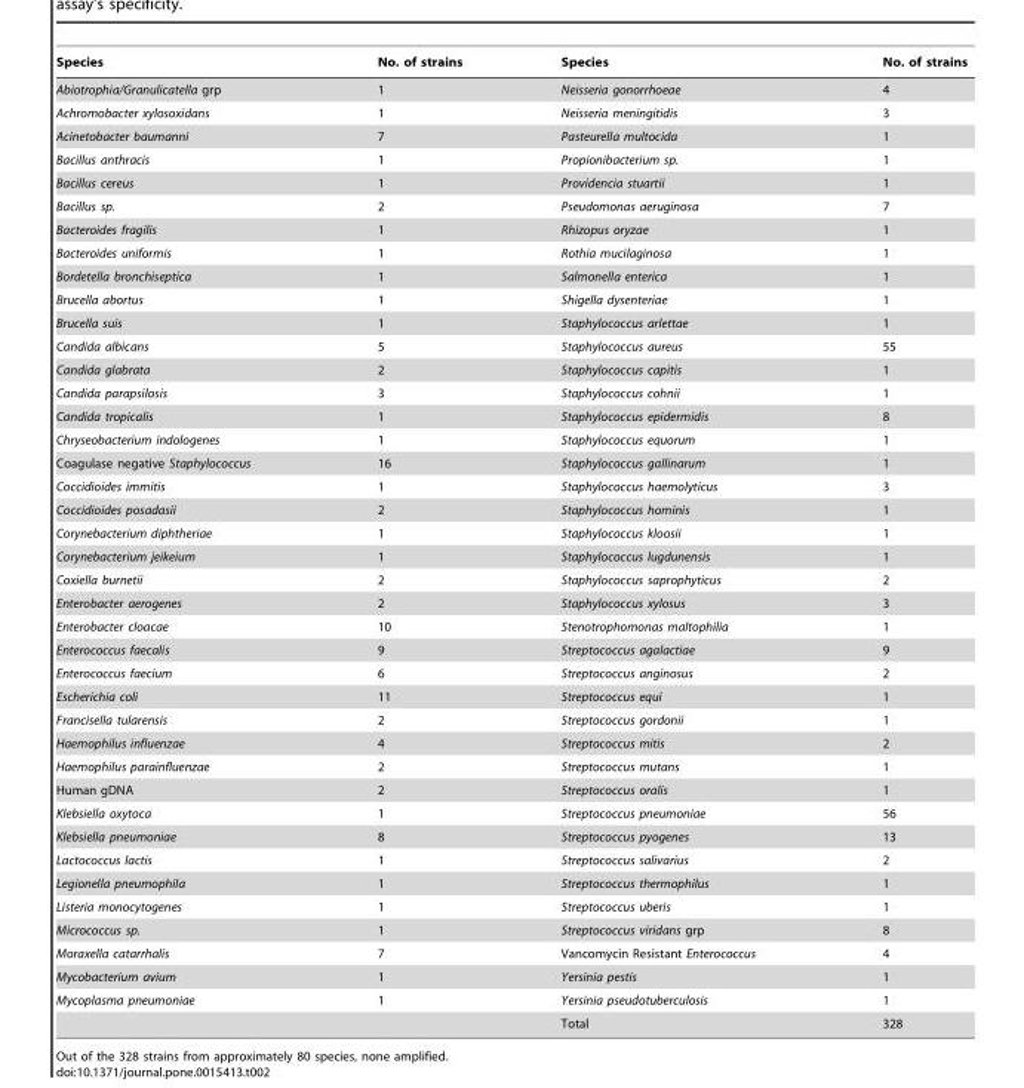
<table><thead><tr><td>Species</td><td>No. of strains</td><td>Species</td><td>No. of strains</td></tr></thead><tbody><tr><td>Abiotrophia/Granulicatella grp</td><td>1</td><td>Neisseria gonorrhoeae</td><td>4</td></tr><tr><td>Achromobacter xylosoxidans</td><td>1</td><td>Neisseria meningitidis</td><td>3</td></tr><tr><td>Acinetobacter baumanni</td><td>7</td><td>Pasteurella multocida</td><td>1</td></tr><tr><td>Bacillus anthracis</td><td>1</td><td>Propionibacterium sp.</td><td>1</td></tr><tr><td>Bacillus cereus</td><td>1</td><td>Providencia stuartii</td><td>1</td></tr><tr><td>Bacillus sp.</td><td>2</td><td>Pseudomonas aeruginosa</td><td>7</td></tr><tr><td>Bacteroides fragilis</td><td>1</td><td>Rhizopus oryzae</td><td>1</td></tr><tr><td>Bacteroides uniformis</td><td>1</td><td>Rothia mucilaginosa</td><td>1</td></tr><tr><td>Bordetella bronchiseptica</td><td>1</td><td>Salmonella enterica</td><td>1</td></tr><tr><td>Brucella abortus</td><td>1</td><td>Shigella dysenteriae</td><td>1</td></tr><tr><td>Brucella suis</td><td>1</td><td>Staphylococcus arlettae</td><td>1</td></tr><tr><td>Candida albicans</td><td>5</td><td>Staphylococcus aureus</td><td>55</td></tr><tr><td>Candida glabrata</td><td>2</td><td>Staphylococcus capitis</td><td>1</td></tr><tr><td>Candida parapsilosis</td><td>3</td><td>Staphylococcus cohnii</td><td>1</td></tr><tr><td>Candida tropicalis</td><td>1</td><td>Staphylococcus epidermidis</td><td>8</td></tr><tr><td>Chryseobacterium indologenes</td><td>1</td><td>Staphylococcus equorum</td><td>1</td></tr><tr><td>Coagulase negative Staphylococcus</td><td>16</td><td>Staphylococcus gallinarum</td><td>1</td></tr><tr><td>Coccidioides immitis</td><td>1</td><td>Staphylococcus haemolyticus</td><td>3</td></tr><tr><td>Coccidioides posadasii</td><td>2</td><td>Staphylococcus hominis</td><td>1</td></tr><tr><td>Corynebacterium diphtheriae</td><td>1</td><td>Staphylococcus kloosii</td><td>1</td></tr><tr><td>Corynebacterium jeikeium</td><td>1</td><td>Staphylococcus lugdunensis</td><td>1</td></tr><tr><td>Coxiella burnetii</td><td>2</td><td>Staphylococcus saprophyticus</td><td>2</td></tr><tr><td>Enterobacter aerogenes</td><td>2</td><td>Staphylococcus xylosus</td><td>3</td></tr><tr><td>Enterobacter cloacae</td><td>10</td><td>Stenotrophomonas maltophilia</td><td>1</td></tr><tr><td>Enterococcus faecalis</td><td>9</td><td>Streptococcus agalactiae</td><td>9</td></tr><tr><td>Enterococcus faecium</td><td>6</td><td>Streptococcus anginosus</td><td>2</td></tr><tr><td>Escherichia coli</td><td>11</td><td>Streptococcus equi</td><td>1</td></tr><tr><td>Francisella tularensis</td><td>2</td><td>Streptococcus gordonii</td><td>1</td></tr><tr><td>Haemophilus influenzae</td><td>4</td><td>Streptococcus mitis</td><td>2</td></tr><tr><td>Haemophilus parainfluenzae</td><td>2</td><td>Streptococcus mutans</td><td>1</td></tr><tr><td>Human gDNA</td><td>2</td><td>Streptococcus oralis</td><td>1</td></tr><tr><td>Klebsiella oxytoca</td><td>1</td><td>Streptococcus pneumoniae</td><td>56</td></tr><tr><td>Klebsiella pneumoniae</td><td>8</td><td>Streptococcus pyogenes</td><td>13</td></tr><tr><td>Lactococcus lactis</td><td>1</td><td>Streptococcus salivarius</td><td>2</td></tr><tr><td>Legionella pneumophila</td><td>1</td><td>Streptococcus thermophilus</td><td>1</td></tr><tr><td>Listeria monocytogenes</td><td>1</td><td>Streptococcus uberis</td><td>1</td></tr><tr><td>Micrococcus sp.</td><td>1</td><td>Streptococcus viridans grp</td><td>8</td></tr><tr><td>Moraxella catarrhalis</td><td>7</td><td>Vancomycin Resistant Enterococcus</td><td>4</td></tr><tr><td>Mycobacterium avium</td><td>1</td><td>Yersinia pestis</td><td>1</td></tr><tr><td rowspan="2">Mycoplasma pneumoniae</td><td>1</td><td>Yersinia pseudotuberculosis</td><td>1</td></tr><tr><td></td><td>Total</td><td>328</td></tr></tbody></table>